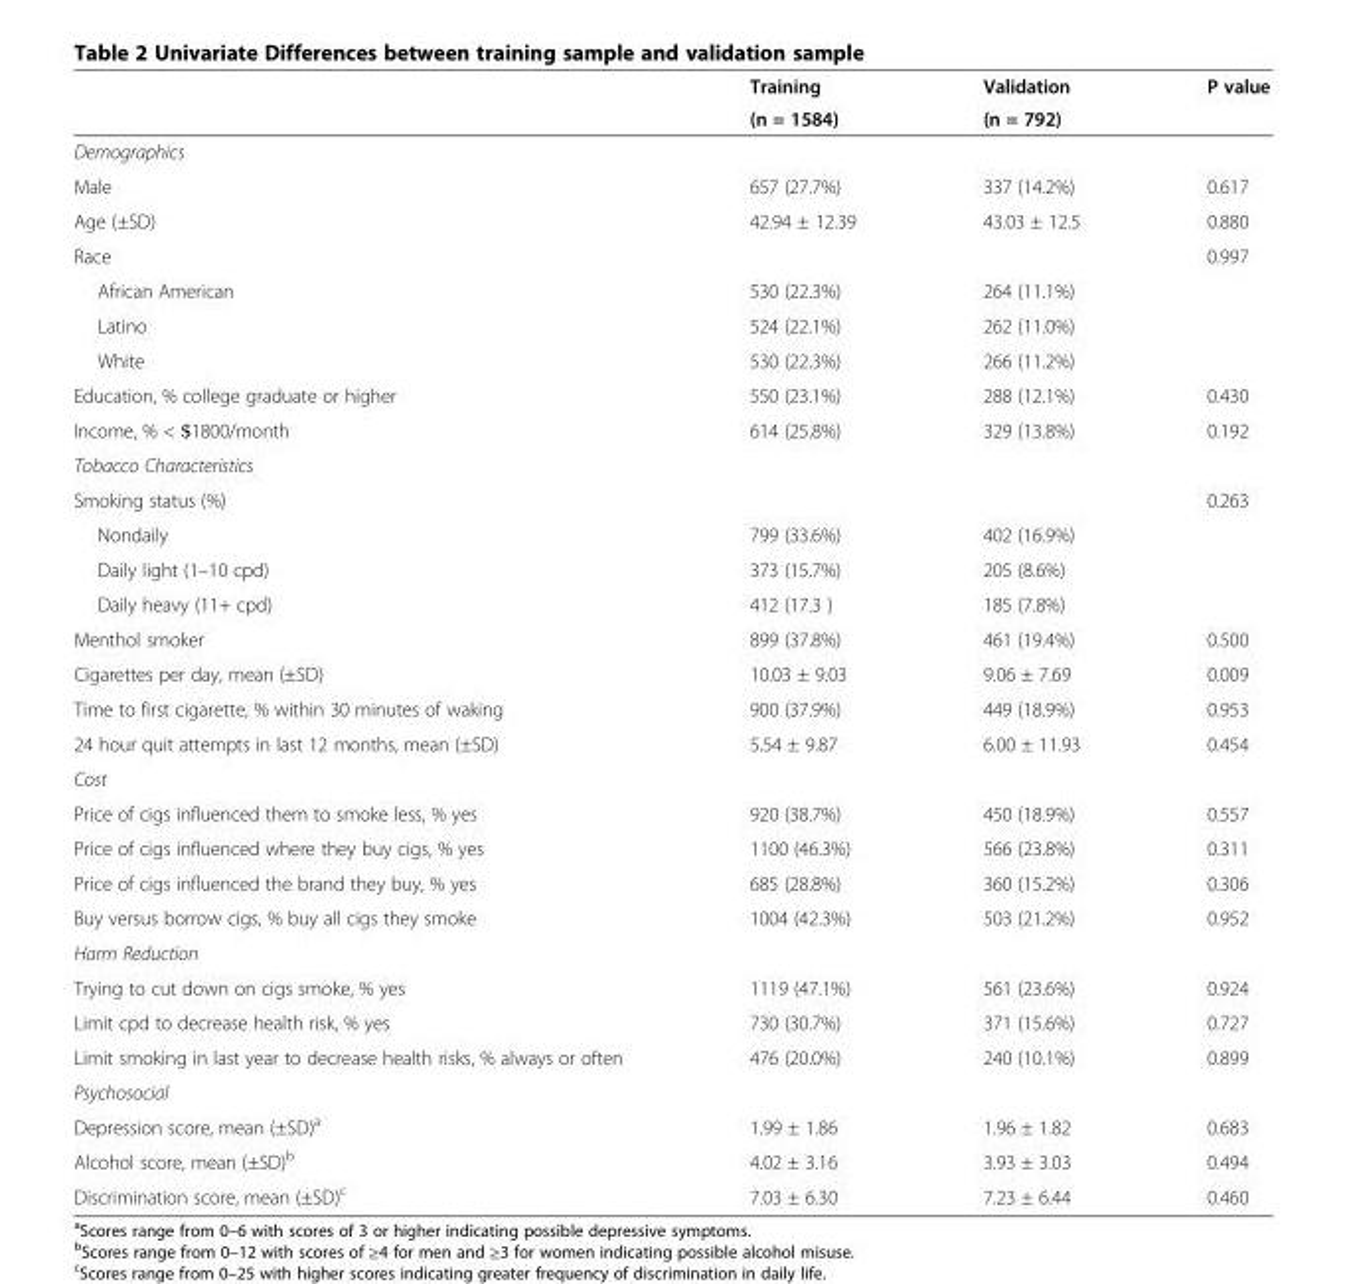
<table><thead><tr><td rowspan="2"></td><td rowspan="2">Training (n = 1584)</td><td rowspan="2">Validation (n = 792)</td><td rowspan="2">P value</td></tr><tr></tr></thead><tbody><tr><td colspan="4">Demographics</td></tr><tr><td>Male</td><td>657 (27.7%)</td><td>337 (14.2%)</td><td>0.617</td></tr><tr><td>Age (±SD)</td><td>42.94 ± 12.39</td><td>43.03 ± 12.5</td><td>0.880</td></tr><tr><td colspan="3">Race</td><td rowspan="4">0.997</td></tr><tr><td>African American</td><td>530 (22.3%)</td><td>264 (11.1%)</td></tr><tr><td>Latino</td><td>524 (22.1%)</td><td>262 (11.0%)</td></tr><tr><td>White</td><td>530 (22.3%)</td><td>266 (11.2%)</td></tr><tr><td>Education, % college graduate or higher</td><td>550 (23.1%)</td><td>288 (12.1%)</td><td>0.430</td></tr><tr><td>Income, % &lt; $1800/month</td><td>614 (25.8%)</td><td>329 (13.8%)</td><td>0.192</td></tr><tr><td colspan="4">Tobacco Characteristics</td></tr><tr><td colspan="3">Smoking status (%)</td><td rowspan="4">0.263</td></tr><tr><td>Nondaily</td><td>799 (33.6%)</td><td>402 (16.9%)</td></tr><tr><td>Daily light (1–10 cpd)</td><td>373 (15.7%)</td><td>205 (8.6%)</td></tr><tr><td>Daily heavy (11+ cpd)</td><td>412 (17.3 )</td><td>185 (7.8%)</td></tr><tr><td>Menthol smoker</td><td>899 (37.8%)</td><td>461 (19.4%)</td><td>0.500</td></tr><tr><td>Cigarettes per day, mean (±SD)</td><td>10.03 ± 9.03</td><td>9.06 ± 7.69</td><td>0.009</td></tr><tr><td>Time to first cigarette, % within 30 minutes of waking</td><td>900 (37.9%)</td><td>449 (18.9%)</td><td>0.953</td></tr><tr><td>24 hour quit attempts in last 12 months, mean (±SD)</td><td>5.54 ± 9.87</td><td>6.00 ± 11.93</td><td>0.454</td></tr><tr><td colspan="4">Cost</td></tr><tr><td>Price of cigs influenced them to smoke less, % yes</td><td>920 (38.7%)</td><td>450 (18.9%)</td><td>0.557</td></tr><tr><td>Price of cigs influenced where they buy cigs, % yes</td><td>1100 (46.3%)</td><td>566 (23.8%)</td><td>0.311</td></tr><tr><td>Price of cigs influenced the brand they buy, % yes</td><td>685 (28.8%)</td><td>360 (15.2%)</td><td>0.306</td></tr><tr><td>Buy versus borrow cigs, % buy all cigs they smoke</td><td>1004 (42.3%)</td><td>503 (21.2%)</td><td>0.952</td></tr><tr><td colspan="4">Harm Reduction</td></tr><tr><td>Trying to cut down on cigs smoke, % yes</td><td>1119 (47.1%)</td><td>561 (23.6%)</td><td>0.924</td></tr><tr><td>Limit cpd to decrease health risk, % yes</td><td>730 (30.7%)</td><td>371 (15.6%)</td><td>0.727</td></tr><tr><td>Limit smoking in last year to decrease health risks, % always or often</td><td>476 (20.0%)</td><td>240 (10.1%)</td><td>0.899</td></tr><tr><td colspan="4">Psychosocial</td></tr><tr><td>Depression score, mean (±SD)<sup>a</sup></td><td>1.99 ± 1.86</td><td>1.96 ± 1.82</td><td>0.683</td></tr><tr><td>Alcohol score, mean (±SD)<sup>b</sup></td><td>4.02 ± 3.16</td><td>3.93 ± 3.03</td><td>0.494</td></tr><tr><td>Discrimination score, mean (±SD)<sup>c</sup></td><td>7.03 ± 6.30</td><td>7.23 ± 6.44</td><td>0.460</td></tr></tbody></table>